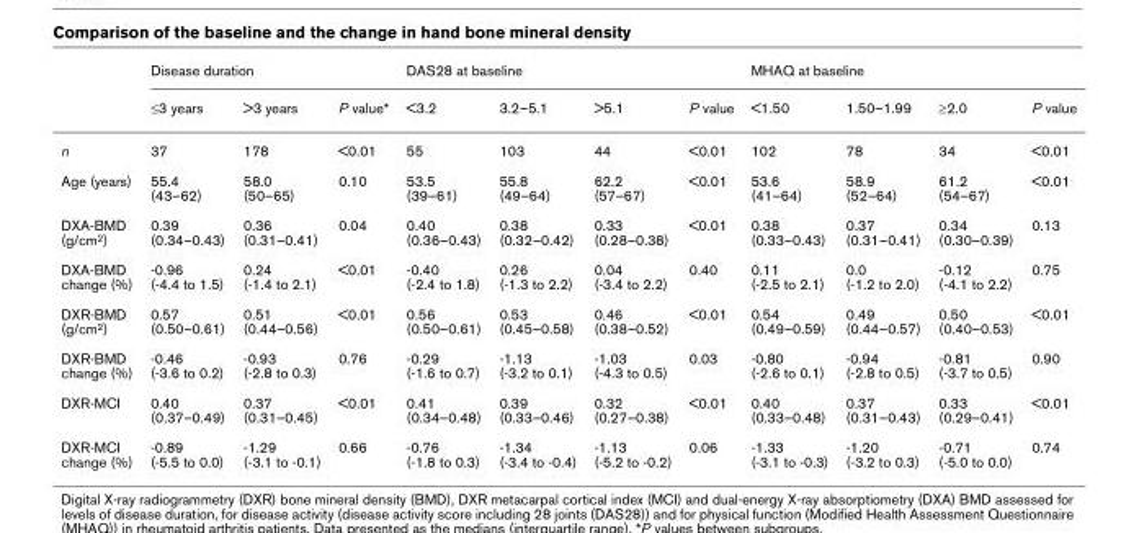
<table><thead><tr><td rowspan="2"></td><td colspan="3">Disease duration</td><td colspan="4">DAS28 at baseline</td><td colspan="4">MHAQ at baseline</td></tr><tr><td>≤3 years</td><td>&gt;3 years</td><td>P value*</td><td>&lt;3.2</td><td>3.2–5.1</td><td>&gt;5.1</td><td>P value</td><td>&lt;1.50</td><td>1.50–1.99</td><td>≥2.0</td><td>P value</td></tr></thead><tbody><tr><td>n</td><td>37</td><td>178</td><td>&lt;0.01</td><td>55</td><td>103</td><td>44</td><td>&lt;0.01</td><td>102</td><td>78</td><td>34</td><td>&lt;0.01</td></tr><tr><td>Age (years)</td><td>55.4 (43–62)</td><td>58.0 (50–65)</td><td>0.10</td><td>53.5 (39–61)</td><td>55.8 (49–64)</td><td>62.2 (57–67)</td><td>&lt;0.01</td><td>53.6 (41–64)</td><td>58.9 (52–64)</td><td>61.2 (54–67)</td><td>&lt;0.01</td></tr><tr><td>DXA-BMD (g/cm<sup>2</sup>)</td><td>0.39 (0.34–0.43)</td><td>0.36 (0.31–0.41)</td><td>0.04</td><td>0.40 (0.36–0.43)</td><td>0.38 (0.32–0.42)</td><td>0.33 (0.28–0.38)</td><td>&lt;0.01</td><td>0.38 (0.33–0.43)</td><td>0.37 (0.31–0.41)</td><td>0.34 (0.30–0.39)</td><td>0.13</td></tr><tr><td>DXA-BMD change (%)</td><td>-0.96 (-4.4 to 1.5)</td><td>0.24 (-1.4 to 2.1)</td><td>&lt;0.01</td><td>-0.40 (-2.4 to 1.8)</td><td>0.26 (-1.3 to 2.2)</td><td>0.04 (-3.4 to 2.2)</td><td>0.40</td><td>0.11 (-2.5 to 2.1)</td><td>0.0 (-1.2 to 2.0)</td><td>-0.12 (-4.1 to 2.2)</td><td>0.75</td></tr><tr><td>DXR-BMD (g/cm<sup>2</sup>)</td><td>0.57 (0.50–0.61)</td><td>0.51 (0.44–0.56)</td><td>&lt;0.01</td><td>0.56 (0.50–0.61)</td><td>0.53 (0.45–0.58)</td><td>0.46 (0.38–0.52)</td><td>&lt;0.01</td><td>0.54 (0.49–0.59)</td><td>0.49 (0.44–0.57)</td><td>0.50 (0.40–0.53)</td><td>&lt;0.01</td></tr><tr><td>DXR-BMD change (%)</td><td>-0.46 (-3.6 to 0.2)</td><td>-0.93 (-2.8 to 0.3)</td><td>0.76</td><td>-0.29 (-1.6 to 0.7)</td><td>-1.13 (-3.2 to 0.1)</td><td>-1.03 (-4.3 to 0.5)</td><td>0.03</td><td>-0.80 (-2.6 to 0.1)</td><td>-0.94 (-2.8 to 0.5)</td><td>-0.81 (-3.7 to 0.5)</td><td>0.90</td></tr><tr><td>DXR-MCI</td><td>0.40 (0.37–0.49)</td><td>0.37 (0.31–0.45)</td><td>&lt;0.01</td><td>0.41 (0.34–0.48)</td><td>0.39 (0.33–0.46)</td><td>0.32 (0.27–0.38)</td><td>&lt;0.01</td><td>0.40 (0.33–0.48)</td><td>0.37 (0.31–0.43)</td><td>0.33 (0.29–0.41)</td><td>&lt;0.01</td></tr><tr><td>DXR-MCI change (%)</td><td>-0.89 (-5.5 to 0.0)</td><td>-1.29 (-3.1 to -0.1)</td><td>0.66</td><td>-0.76 (-1.8 to 0.3)</td><td>-1.34 (-3.4 to -0.4)</td><td>-1.13 (-5.2 to -0.2)</td><td>0.06</td><td>-1.33 (-3.1 to -0.3)</td><td>-1.20 (-3.2 to 0.3)</td><td>-0.71 (-5.0 to 0.0)</td><td>0.74</td></tr></tbody></table>